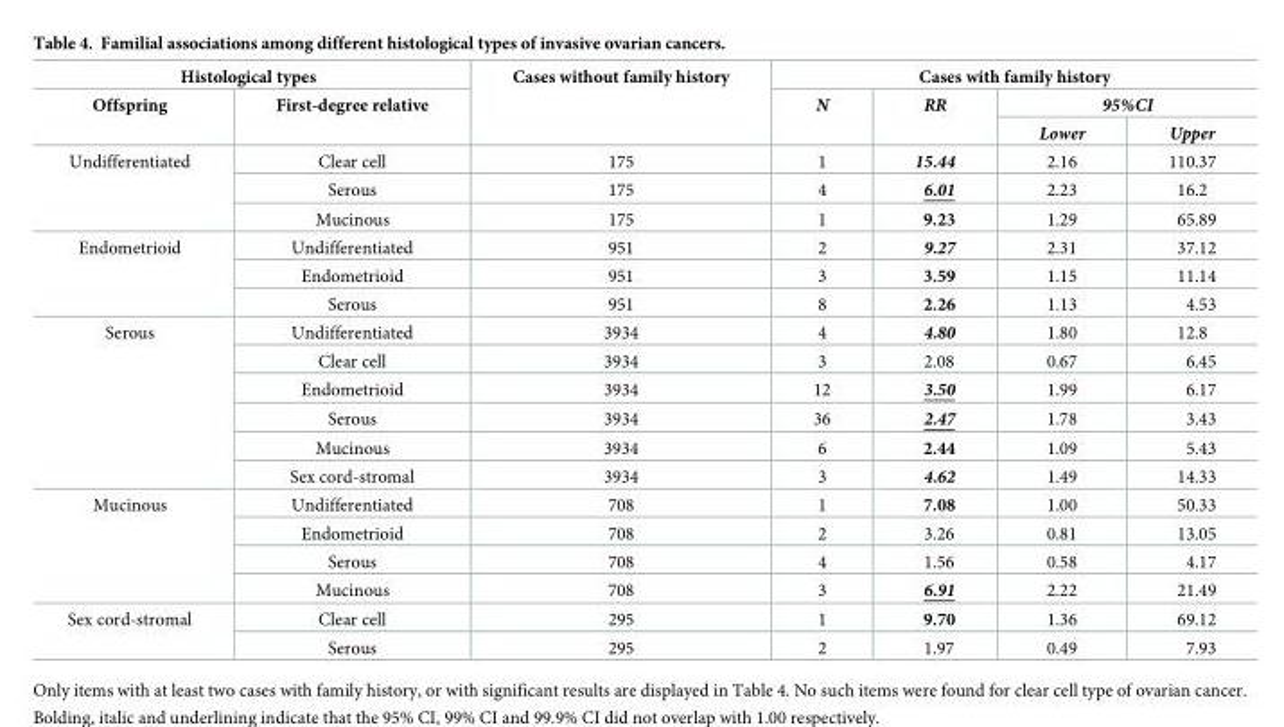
<table><thead><tr><td colspan="2">Histological types</td><td rowspan="3">Cases without family history</td><td colspan="4">Cases with family history</td></tr><tr><td rowspan="2">Offspring</td><td rowspan="2">First-degree relative</td><td rowspan="2">N</td><td rowspan="2">RR</td><td colspan="2">95%CI</td></tr><tr><td>Lower</td><td>Upper</td></tr></thead><tbody><tr><td rowspan="3">Undifferentiated</td><td>Clear cell</td><td>175</td><td>1</td><td>15.44</td><td>2.16</td><td>110.37</td></tr><tr><td>Serous</td><td>175</td><td>4</td><td>6.01</td><td>2.23</td><td>16.2</td></tr><tr><td>Mucinous</td><td>175</td><td>1</td><td>9.23</td><td>1.29</td><td>65.89</td></tr><tr><td rowspan="3">Endometrioid</td><td>Undifferentiated</td><td>951</td><td>2</td><td>9.27</td><td>2.31</td><td>37.12</td></tr><tr><td>Endometrioid</td><td>951</td><td>3</td><td>3.59</td><td>1.15</td><td>11.14</td></tr><tr><td>Serous</td><td>951</td><td>8</td><td>2.26</td><td>1.13</td><td>4.53</td></tr><tr><td rowspan="6">Serous</td><td>Undifferentiated</td><td>3934</td><td>4</td><td>4.80</td><td>1.80</td><td>12.8</td></tr><tr><td>Clear cell</td><td>3934</td><td>3</td><td>2.08</td><td>0.67</td><td>6.45</td></tr><tr><td>Endometrioid</td><td>3934</td><td>12</td><td>3.50</td><td>1.99</td><td>6.17</td></tr><tr><td>Serous</td><td>3934</td><td>36</td><td>2.47</td><td>1.78</td><td>3.43</td></tr><tr><td>Mucinous</td><td>3934</td><td>6</td><td>2.44</td><td>1.09</td><td>5.43</td></tr><tr><td>Sex cord-stromal</td><td>3934</td><td>3</td><td>4.62</td><td>1.49</td><td>14.33</td></tr><tr><td rowspan="4">Mucinous</td><td>Undifferentiated</td><td>708</td><td>1</td><td>7.08</td><td>1.00</td><td>50.33</td></tr><tr><td>Endometrioid</td><td>708</td><td>2</td><td>3.26</td><td>0.81</td><td>13.05</td></tr><tr><td>Serous</td><td>708</td><td>4</td><td>1.56</td><td>0.58</td><td>4.17</td></tr><tr><td>Mucinous</td><td>708</td><td>3</td><td>6.91</td><td>2.22</td><td>21.49</td></tr><tr><td rowspan="2">Sex cord-stromal</td><td>Clear cell</td><td>295</td><td>1</td><td>9.70</td><td>1.36</td><td>69.12</td></tr><tr><td>Serous</td><td>295</td><td>2</td><td>1.97</td><td>0.49</td><td>7.93</td></tr></tbody></table>